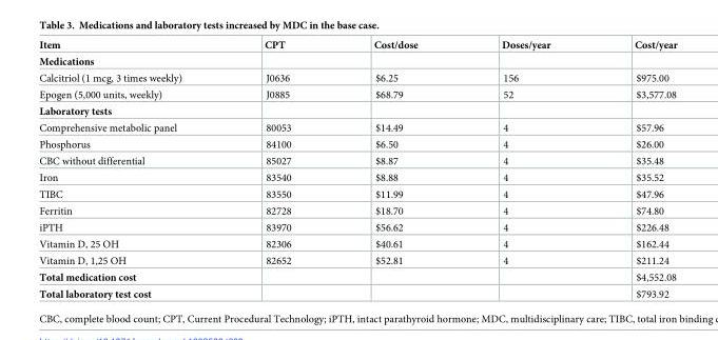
<table><thead><tr><td>Item</td><td>CPT</td><td>Cost/dose</td><td>Doses/year</td><td>Cost/year</td></tr></thead><tbody><tr><td colspan="5">Medications</td></tr><tr><td>Calcitriol (1 mcg, 3 times weekly)</td><td>J0636</td><td>$6.25</td><td>156</td><td>$975.00</td></tr><tr><td>Epogen (5,000 units, weekly)</td><td>J0885</td><td>$68.79</td><td>52</td><td>$3,577.08</td></tr><tr><td colspan="5">Laboratory tests</td></tr><tr><td>Comprehensive metabolic panel</td><td>80053</td><td>$14.49</td><td>4</td><td>$57.96</td></tr><tr><td>Phosphorus</td><td>84100</td><td>$6.50</td><td>4</td><td>$26.00</td></tr><tr><td>CBC without differential</td><td>85027</td><td>$8.87</td><td>4</td><td>$35.48</td></tr><tr><td>Iron</td><td>83540</td><td>$8.88</td><td>4</td><td>$35.52</td></tr><tr><td>TIBC</td><td>83550</td><td>$11.99</td><td>4</td><td>$47.96</td></tr><tr><td>Ferritin</td><td>82728</td><td>$18.70</td><td>4</td><td>$74.80</td></tr><tr><td>iPTH</td><td>83970</td><td>$56.62</td><td>4</td><td>$226.48</td></tr><tr><td>Vitamin D, 25 OH</td><td>82306</td><td>$40.61</td><td>4</td><td>$162.44</td></tr><tr><td>Vitamin D, 1,25 OH</td><td>82652</td><td>$52.81</td><td>4</td><td>$211.24</td></tr><tr><td>Total medication cost</td><td></td><td></td><td></td><td>$4,552.08</td></tr><tr><td>Total laboratory test cost</td><td></td><td></td><td></td><td>$793.92</td></tr></tbody></table>